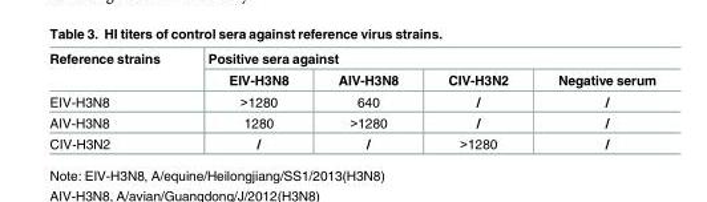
<table><thead><tr><td rowspan="2">Reference strains</td><td colspan="4">Positive sera against</td></tr><tr><td>EIV-H3N8</td><td>AIV-H3N8</td><td>CIV-H3N2</td><td>Negative serum</td></tr></thead><tbody><tr><td>EIV-H3N8</td><td>&gt;1280</td><td>640</td><td>/</td><td>/</td></tr><tr><td>AIV-H3N8</td><td>1280</td><td>&gt;1280</td><td>/</td><td>/</td></tr><tr><td>CIV-H3N2</td><td>/</td><td>/</td><td>&gt;1280</td><td>/</td></tr></tbody></table>